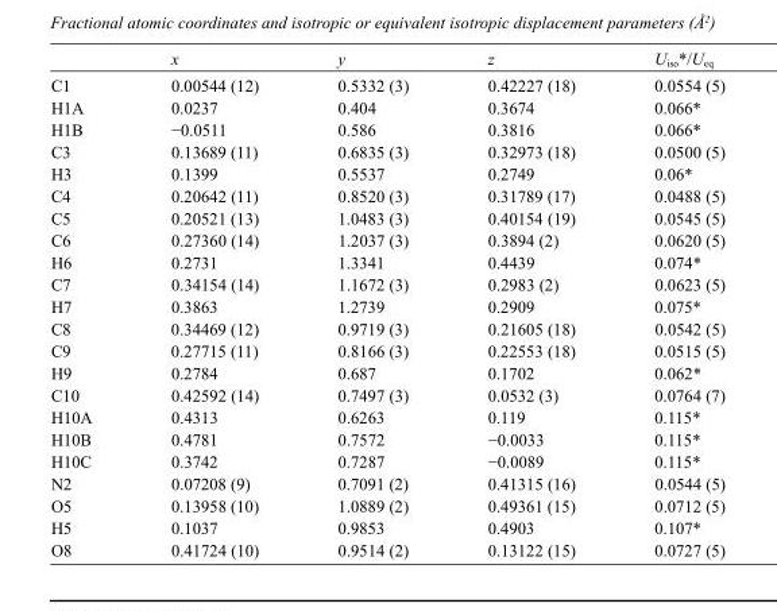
<table><thead><tr><td></td><td>x</td><td>y</td><td>z</td><td>U<sub>iso</sub>*/U<sub>eq</sub></td></tr></thead><tbody><tr><td>C1</td><td>0.00544 (12)</td><td>0.5332 (3)</td><td>0.42227 (18)</td><td>0.0554 (5)</td></tr><tr><td>H1A</td><td>0.0237</td><td>0.404</td><td>0.3674</td><td>0.066*</td></tr><tr><td>H1B</td><td>−0.0511</td><td>0.586</td><td>0.3816</td><td>0.066*</td></tr><tr><td>C3</td><td>0.13689 (11)</td><td>0.6835 (3)</td><td>0.32973 (18)</td><td>0.0500 (5)</td></tr><tr><td>H3</td><td>0.1399</td><td>0.5537</td><td>0.2749</td><td>0.06*</td></tr><tr><td>C4</td><td>0.20642 (11)</td><td>0.8520 (3)</td><td>0.31789 (17)</td><td>0.0488 (5)</td></tr><tr><td>C5</td><td>0.20521 (13)</td><td>1.0483 (3)</td><td>0.40154 (19)</td><td>0.0545 (5)</td></tr><tr><td>C6</td><td>0.27360 (14)</td><td>1.2037 (3)</td><td>0.3894 (2)</td><td>0.0620 (5)</td></tr><tr><td>H6</td><td>0.2731</td><td>1.3341</td><td>0.4439</td><td>0.074*</td></tr><tr><td>C7</td><td>0.34154 (14)</td><td>1.1672 (3)</td><td>0.2983 (2)</td><td>0.0623 (5)</td></tr><tr><td>H7</td><td>0.3863</td><td>1.2739</td><td>0.2909</td><td>0.075*</td></tr><tr><td>C8</td><td>0.34469 (12)</td><td>0.9719 (3)</td><td>0.21605 (18)</td><td>0.0542 (5)</td></tr><tr><td>C9</td><td>0.27715 (11)</td><td>0.8166 (3)</td><td>0.22553 (18)</td><td>0.0515 (5)</td></tr><tr><td>H9</td><td>0.2784</td><td>0.687</td><td>0.1702</td><td>0.062*</td></tr><tr><td>C10</td><td>0.42592 (14)</td><td>0.7497 (3)</td><td>0.0532 (3)</td><td>0.0764 (7)</td></tr><tr><td>H10A</td><td>0.4313</td><td>0.6263</td><td>0.119</td><td>0.115*</td></tr><tr><td>H10B</td><td>0.4781</td><td>0.7572</td><td>−0.0033</td><td>0.115*</td></tr><tr><td>H10C</td><td>0.3742</td><td>0.7287</td><td>−0.0089</td><td>0.115*</td></tr><tr><td>N2</td><td>0.07208 (9)</td><td>0.7091 (2)</td><td>0.41315 (16)</td><td>0.0544 (5)</td></tr><tr><td>O5</td><td>0.13958 (10)</td><td>1.0889 (2)</td><td>0.49361 (15)</td><td>0.0712 (5)</td></tr><tr><td>H5</td><td>0.1037</td><td>0.9853</td><td>0.4903</td><td>0.107*</td></tr><tr><td>O8</td><td>0.41724 (10)</td><td>0.9514 (2)</td><td>0.13122 (15)</td><td>0.0727 (5)</td></tr></tbody></table>